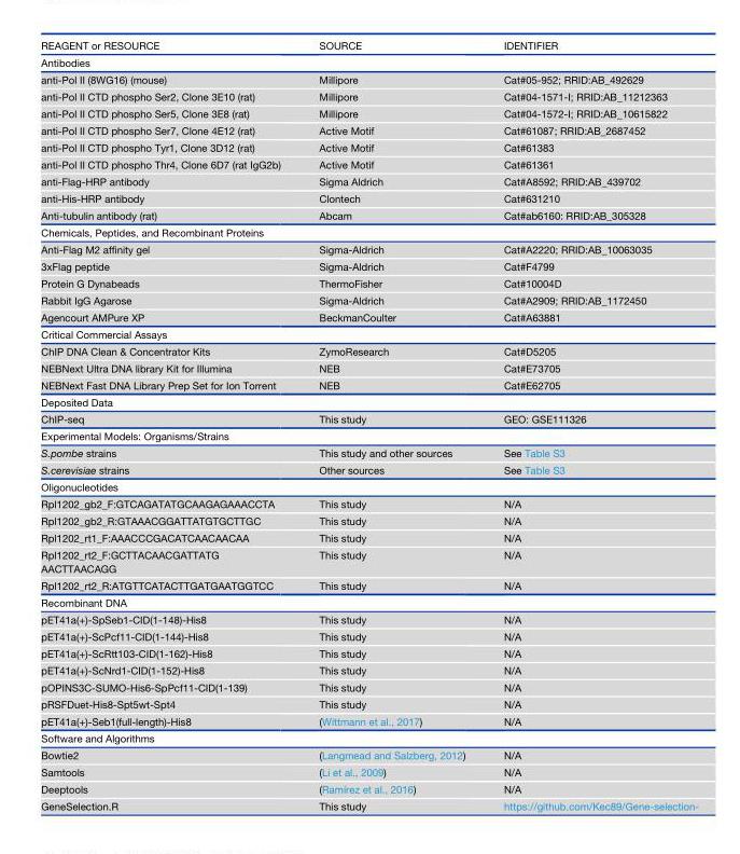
<table><thead><tr><td>REAGENT or RESOURCE</td><td>SOURCE</td><td>IDENTIFIER</td></tr></thead><tbody><tr><td colspan="3">Antibodies</td></tr><tr><td>anti-Pol II (8WG16) (mouse)</td><td>Millipore</td><td>Cat#05-952; RRID:AB_492629</td></tr><tr><td>anti-Pol II CTD phospho Ser2, Clone 3E10 (rat)</td><td>Millipore</td><td>Cat#04-1571-I; RRID:AB_11212363</td></tr><tr><td>anti-Pol II CTD phospho Ser5, Clone 3E8 (rat)</td><td>Millipore</td><td>Cat#04-1572-I; RRID:AB_10615822</td></tr><tr><td>anti-Pol II CTD phospho Ser7, Clone 4E12 (rat)</td><td>Active Motif</td><td>Cat#61087; RRID:AB_2687452</td></tr><tr><td>anti-Pol II CTD phospho Tyr1, Clone 3D12 (rat)</td><td>Active Motif</td><td>Cat#61383</td></tr><tr><td>anti-Pol II CTD phospho Thr4, Clone 6D7 (rat IgG2b)</td><td>Active Motif</td><td>Cat#61361</td></tr><tr><td>anti-Flag-HRP antibody</td><td>Sigma Aldrich</td><td>Cat#A8592; RRID:AB_439702</td></tr><tr><td>anti-His-HRP antibody</td><td>Clontech</td><td>Cat#631210</td></tr><tr><td>Anti-tubulin antibody (rat)</td><td>Abcam</td><td>Cat#ab6160: RRID:AB_305328</td></tr><tr><td colspan="3">Chemicals, Peptides, and Recombinant Proteins</td></tr><tr><td>Anti-Flag M2 affinity gel</td><td>Sigma-Aldrich</td><td>Cat#A2220; RRID:AB_10063035</td></tr><tr><td>3xFlag peptide</td><td>Sigma-Aldrich</td><td>Cat#F4799</td></tr><tr><td>Protein G Dynabeads</td><td>ThermoFisher</td><td>Cat#10004D</td></tr><tr><td>Rabbit IgG Agarose</td><td>Sigma-Aldrich</td><td>Cat#A2909; RRID:AB_1172450</td></tr><tr><td>Agencourt AMPure XP</td><td>BeckmanCoulter</td><td>Cat#A63881</td></tr><tr><td colspan="3">Critical Commercial Assays</td></tr><tr><td>ChIP DNA Clean &amp; Concentrator Kits</td><td>ZymoResearch</td><td>Cat#D5205</td></tr><tr><td>NEBNext Ultra DNA library Kit for Illumina</td><td>NEB</td><td>Cat#E73705</td></tr><tr><td>NEBNext Fast DNA Library Prep Set for Ion Torrent</td><td>NEB</td><td>Cat#E62705</td></tr><tr><td colspan="3">Deposited Data</td></tr><tr><td>ChIP-seq</td><td>This study</td><td>GEO: GSE111326</td></tr><tr><td colspan="3">Experimental Models: Organisms/Strains</td></tr><tr><td>S.pombe strains</td><td>This study and other sources</td><td>See Table S3</td></tr><tr><td>S.cerevisiae strains</td><td>Other sources</td><td>See Table S3</td></tr><tr><td colspan="3">Oligonucleotides</td></tr><tr><td>Rpl1202_gb2_F:GTCAGATATGCAAGAGAAACCTA</td><td>This study</td><td>N/A</td></tr><tr><td>Rpl1202_gb2_R:GTAAACGGATTATGTGCTTGC</td><td>This study</td><td>N/A</td></tr><tr><td>Rpl1202_rt1_F:AAACCCGACATCAACAACAA</td><td>This study</td><td>N/A</td></tr><tr><td>Rpl1202_rt2_F:GCTTACAACGATTATG AACTTAACAGG</td><td>This study</td><td>N/A</td></tr><tr><td>Rpl1202_rt2_R:ATGTTCATACTTGATGAATGGTCC</td><td>This study</td><td>N/A</td></tr><tr><td colspan="3">Recombinant DNA</td></tr><tr><td>pET41a(+)-SpSeb1-CID(1-148)-His8</td><td>This study</td><td>N/A</td></tr><tr><td>pET41a(+)-ScPcf11-CID(1-144)-His8</td><td>This study</td><td>N/A</td></tr><tr><td>pET41a(+)-ScRtt103-CID(1-162)-His8</td><td>This study</td><td>N/A</td></tr><tr><td>pET41a(+)-ScNrd1-CID(1-152)-His8</td><td>This study</td><td>N/A</td></tr><tr><td>pOPINS3C-SUMO-His6-SpPcf11-CID(1-139)</td><td>This study</td><td>N/A</td></tr><tr><td>pRSFDuet-His8-Spt5wt-Spt4</td><td>This study</td><td>N/A</td></tr><tr><td>pET41a(+)-Seb1(full-length)-His8</td><td>(Wittmann et al., 2017)</td><td>N/A</td></tr><tr><td colspan="3">Software and Algorithms</td></tr><tr><td>Bowtie2</td><td>(Langmead and Salzberg, 2012)</td><td>N/A</td></tr><tr><td>Samtools</td><td>(Li et al., 2009)</td><td>N/A</td></tr><tr><td>Deeptools</td><td>(Ramı´rez et al., 2016)</td><td>N/A</td></tr><tr><td>GeneSelection.R</td><td>This study</td><td>https://github.com/Kec89/Gene-selection-</td></tr></tbody></table>